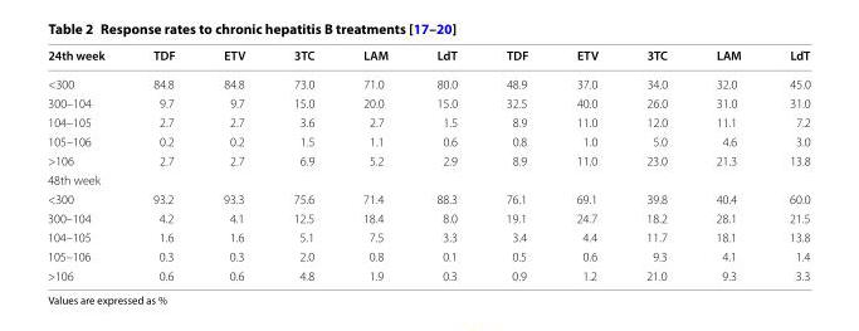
<table><thead><tr><td>24th week</td><td>TDF</td><td>ETV</td><td>3TC</td><td>LAM</td><td>LdT</td><td>TDF</td><td>ETV</td><td>3TC</td><td>LAM</td><td>LdT</td></tr></thead><tbody><tr><td>&lt;300</td><td>84.8</td><td>84.8</td><td>73.0</td><td>71.0</td><td>80.0</td><td>48.9</td><td>37.0</td><td>34.0</td><td>32.0</td><td>45.0</td></tr><tr><td>300–104</td><td>9.7</td><td>9.7</td><td>15.0</td><td>20.0</td><td>15.0</td><td>32.5</td><td>40.0</td><td>26.0</td><td>31.0</td><td>31.0</td></tr><tr><td>104–105</td><td>2.7</td><td>2.7</td><td>3.6</td><td>2.7</td><td>1.5</td><td>8.9</td><td>11.0</td><td>12.0</td><td>11.1</td><td>7.2</td></tr><tr><td>105–106</td><td>0.2</td><td>0.2</td><td>1.5</td><td>1.1</td><td>0.6</td><td>0.8</td><td>1.0</td><td>5.0</td><td>4.6</td><td>3.0</td></tr><tr><td>&gt;106</td><td>2.7</td><td>2.7</td><td>6.9</td><td>5.2</td><td>2.9</td><td>8.9</td><td>11.0</td><td>23.0</td><td>21.3</td><td>13.8</td></tr><tr><td colspan="11">48th week</td></tr><tr><td>&lt;300</td><td>93.2</td><td>93.3</td><td>75.6</td><td>71.4</td><td>88.3</td><td>76.1</td><td>69.1</td><td>39.8</td><td>40.4</td><td>60.0</td></tr><tr><td>300–104</td><td>4.2</td><td>4.1</td><td>12.5</td><td>18.4</td><td>8.0</td><td>19.1</td><td>24.7</td><td>18.2</td><td>28.1</td><td>21.5</td></tr><tr><td>104–105</td><td>1.6</td><td>1.6</td><td>5.1</td><td>7.5</td><td>3.3</td><td>3.4</td><td>4.4</td><td>11.7</td><td>18.1</td><td>13.8</td></tr><tr><td>105–106</td><td>0.3</td><td>0.3</td><td>2.0</td><td>0.8</td><td>0.1</td><td>0.5</td><td>0.6</td><td>9.3</td><td>4.1</td><td>1.4</td></tr><tr><td>&gt;106</td><td>0.6</td><td>0.6</td><td>4.8</td><td>1.9</td><td>0.3</td><td>0.9</td><td>1.2</td><td>21.0</td><td>9.3</td><td>3.3</td></tr></tbody></table>